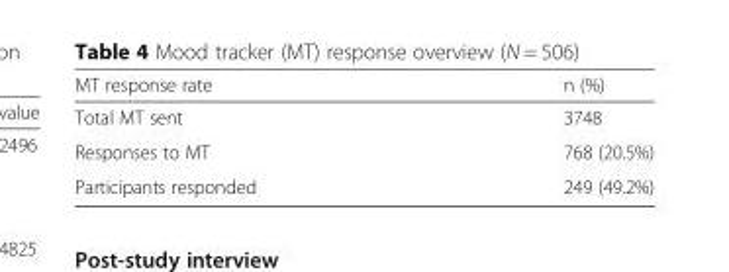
<table><thead><tr><td>MT response rate</td><td>n (%)</td></tr></thead><tbody><tr><td>Total MT sent</td><td>3748</td></tr><tr><td>Responses to MT</td><td>768 (20.5%)</td></tr><tr><td>Participants responded</td><td>249 (49.2%)</td></tr></tbody></table>